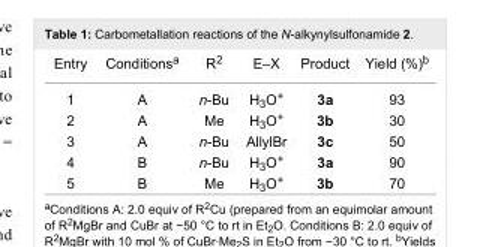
<table><tbody><tr><td>Entry</td><td>Conditions<sup>a</sup></td><td>R<sup>2</sup></td><td>E–X</td><td>Product</td><td>Yield (%)<sup>b</sup></td></tr><tr><td>1</td><td>A</td><td>n-Bu</td><td>H<sub>3</sub>O<sup>+</sup></td><td>3a</td><td>93</td></tr><tr><td>2</td><td>A</td><td>Me</td><td>H<sub>3</sub>O<sup>+</sup></td><td>3b</td><td>30</td></tr><tr><td>3</td><td>A</td><td>n-Bu</td><td>AllylBr</td><td>3c</td><td>50</td></tr><tr><td>4</td><td>B</td><td>n-Bu</td><td>H<sub>3</sub>O<sup>+</sup></td><td>3a</td><td>90</td></tr><tr><td>5</td><td>B</td><td>Me</td><td>H<sub>3</sub>O<sup>+</sup></td><td>3b</td><td>70</td></tr></tbody></table>